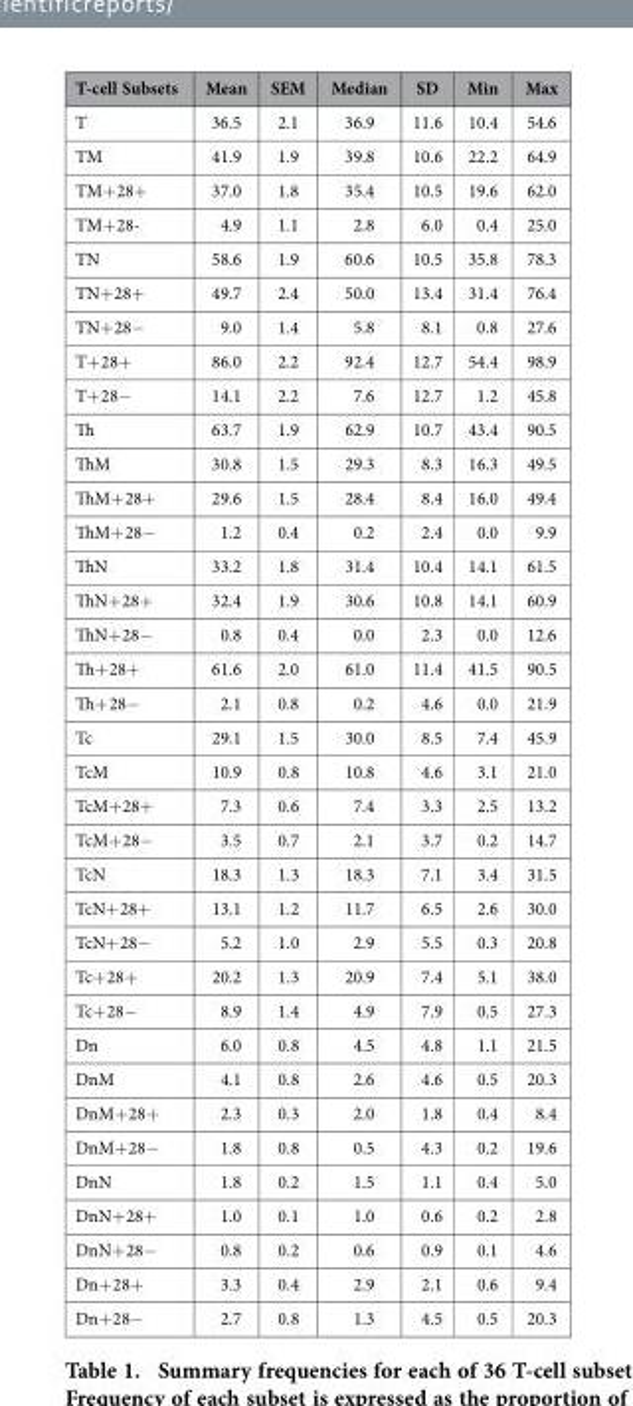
<table><thead><tr><td>T-cell Subsets</td><td>Mean</td><td>SEM</td><td>Median</td><td>SD</td><td>Min</td><td>Max</td></tr></thead><tbody><tr><td>T</td><td>36.5</td><td>2.1</td><td>36.9</td><td>11.6</td><td>10.4</td><td>54.6</td></tr><tr><td>TM</td><td>41.9</td><td>1.9</td><td>39.8</td><td>10.6</td><td>22.2</td><td>64.9</td></tr><tr><td>TM+ 28+</td><td>37.0</td><td>1.8</td><td>35.4</td><td>10.5</td><td>19.6</td><td>62.0</td></tr><tr><td>TM+ 28-</td><td>4.9</td><td>1.1</td><td>2.8</td><td>6.0</td><td>0.4</td><td>25.0</td></tr><tr><td>TN</td><td>58.6</td><td>1.9</td><td>60.6</td><td>10.5</td><td>35.8</td><td>78.3</td></tr><tr><td>TN+ 28+</td><td>49.7</td><td>2.4</td><td>50.0</td><td>13.4</td><td>31.4</td><td>76.4</td></tr><tr><td>TN+ 28−</td><td>9.0</td><td>1.4</td><td>5.8</td><td>8.1</td><td>0.8</td><td>27.6</td></tr><tr><td>T+ 28+</td><td>86.0</td><td>2.2</td><td>92.4</td><td>12.7</td><td>54.4</td><td>98.9</td></tr><tr><td>T+ 28−</td><td>14.1</td><td>2.2</td><td>7.6</td><td>12.7</td><td>1.2</td><td>45.8</td></tr><tr><td>Th</td><td>63.7</td><td>1.9</td><td>62.9</td><td>10.7</td><td>43.4</td><td>90.5</td></tr><tr><td>ThM</td><td>30.8</td><td>1.5</td><td>29.3</td><td>8.3</td><td>16.3</td><td>49.5</td></tr><tr><td>ThM+ 28+</td><td>29.6</td><td>1.5</td><td>28.4</td><td>8.4</td><td>16.0</td><td>49.4</td></tr><tr><td>ThM+ 28−</td><td>1.2</td><td>0.4</td><td>0.2</td><td>2.4</td><td>0.0</td><td>9.9</td></tr><tr><td>ThN</td><td>33.2</td><td>1.8</td><td>31.4</td><td>10.4</td><td>14.1</td><td>61.5</td></tr><tr><td>ThN+ 28+</td><td>32.4</td><td>1.9</td><td>30.6</td><td>10.8</td><td>14.1</td><td>60.9</td></tr><tr><td>ThN+ 28−</td><td>0.8</td><td>0.4</td><td>0.0</td><td>2.3</td><td>0.0</td><td>12.6</td></tr><tr><td>Th+ 28+</td><td>61.6</td><td>2.0</td><td>61.0</td><td>11.4</td><td>41.5</td><td>90.5</td></tr><tr><td>Th+ 28−</td><td>2.1</td><td>0.8</td><td>0.2</td><td>4.6</td><td>0.0</td><td>21.9</td></tr><tr><td>Tc</td><td>29.1</td><td>1.5</td><td>30.0</td><td>8.5</td><td>7.4</td><td>45.9</td></tr><tr><td>TcM</td><td>10.9</td><td>0.8</td><td>10.8</td><td>4.6</td><td>3.1</td><td>21.0</td></tr><tr><td>TcM+ 28+</td><td>7.3</td><td>0.6</td><td>7.4</td><td>3.3</td><td>2.5</td><td>13.2</td></tr><tr><td>TcM+ 28−</td><td>3.5</td><td>0.7</td><td>2.1</td><td>3.7</td><td>0.2</td><td>14.7</td></tr><tr><td>TcN</td><td>18.3</td><td>1.3</td><td>18.3</td><td>7.1</td><td>3.4</td><td>31.5</td></tr><tr><td>TcN+ 28+</td><td>13.1</td><td>1.2</td><td>11.7</td><td>6.5</td><td>2.6</td><td>30.0</td></tr><tr><td>TcN+ 28−</td><td>5.2</td><td>1.0</td><td>2.9</td><td>5.5</td><td>0.3</td><td>20.8</td></tr><tr><td>Tc+ 28+</td><td>20.2</td><td>1.3</td><td>20.9</td><td>7.4</td><td>5.1</td><td>38.0</td></tr><tr><td>Tc+ 28−</td><td>8.9</td><td>1.4</td><td>4.9</td><td>7.9</td><td>0.5</td><td>27.3</td></tr><tr><td>Dn</td><td>6.0</td><td>0.8</td><td>4.5</td><td>4.8</td><td>1.1</td><td>21.5</td></tr><tr><td>DnM</td><td>4.1</td><td>0.8</td><td>2.6</td><td>4.6</td><td>0.5</td><td>20.3</td></tr><tr><td>DnM+ 28+</td><td>2.3</td><td>0.3</td><td>2.0</td><td>1.8</td><td>0.4</td><td>8.4</td></tr><tr><td>DnM+ 28−</td><td>1.8</td><td>0.8</td><td>0.5</td><td>4.3</td><td>0.2</td><td>19.6</td></tr><tr><td>DnN</td><td>1.8</td><td>0.2</td><td>1.5</td><td>1.1</td><td>0.4</td><td>5.0</td></tr><tr><td>DnN+ 28+</td><td>1.0</td><td>0.1</td><td>1.0</td><td>0.6</td><td>0.2</td><td>2.8</td></tr><tr><td>DnN+ 28−</td><td>0.8</td><td>0.2</td><td>0.6</td><td>0.9</td><td>0.1</td><td>4.6</td></tr><tr><td>Dn+ 28+</td><td>3.3</td><td>0.4</td><td>2.9</td><td>2.1</td><td>0.6</td><td>9.4</td></tr><tr><td>Dn+ 28−</td><td>2.7</td><td>0.8</td><td>1.3</td><td>4.5</td><td>0.5</td><td>20.3</td></tr></tbody></table>